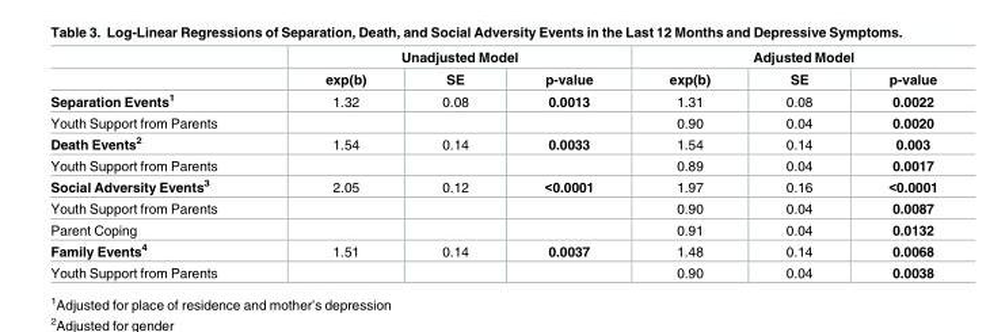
<table><thead><tr><td rowspan="2"></td><td colspan="3">Unadjusted Model</td><td colspan="3">Adjusted Model</td></tr><tr><td>exp(b)</td><td>SE</td><td>p-value</td><td>exp(b)</td><td>SE</td><td>p-value</td></tr></thead><tbody><tr><td>Separation Events<sup>1</sup></td><td>1.32</td><td>0.08</td><td>0.0013</td><td>1.31</td><td>0.08</td><td>0.0022</td></tr><tr><td>Youth Support from Parents</td><td></td><td></td><td></td><td>0.90</td><td>0.04</td><td>0.0020</td></tr><tr><td>Death Events<sup>2</sup></td><td>1.54</td><td>0.14</td><td>0.0033</td><td>1.54</td><td>0.14</td><td>0.003</td></tr><tr><td>Youth Support from Parents</td><td></td><td></td><td></td><td>0.89</td><td>0.04</td><td>0.0017</td></tr><tr><td>Social Adversity Events<sup>3</sup></td><td>2.05</td><td>0.12</td><td>&lt;0.0001</td><td>1.97</td><td>0.16</td><td>&lt;0.0001</td></tr><tr><td>Youth Support from Parents</td><td></td><td></td><td></td><td>0.90</td><td>0.04</td><td>0.0087</td></tr><tr><td>Parent Coping</td><td></td><td></td><td></td><td>0.91</td><td>0.04</td><td>0.0132</td></tr><tr><td>Family Events<sup>4</sup></td><td>1.51</td><td>0.14</td><td>0.0037</td><td>1.48</td><td>0.14</td><td>0.0068</td></tr><tr><td>Youth Support from Parents</td><td></td><td></td><td></td><td>0.90</td><td>0.04</td><td>0.0038</td></tr></tbody></table>